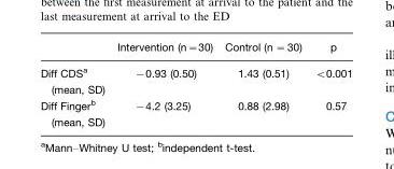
<table><thead><tr><td></td><td>Intervention (n=30)</td><td>Control (n =30)</td><td>p</td></tr></thead><tbody><tr><td>Diff CDS<sup>a</sup> (mean, SD)</td><td>−0.93 (0.50)</td><td>1.43 (0.51)</td><td>&lt;0.001</td></tr><tr><td>Diff Finger<sup>b</sup> (mean, SD)</td><td>−4.2 (3.25)</td><td>0.88 (2.98)</td><td>0.57</td></tr></tbody></table>